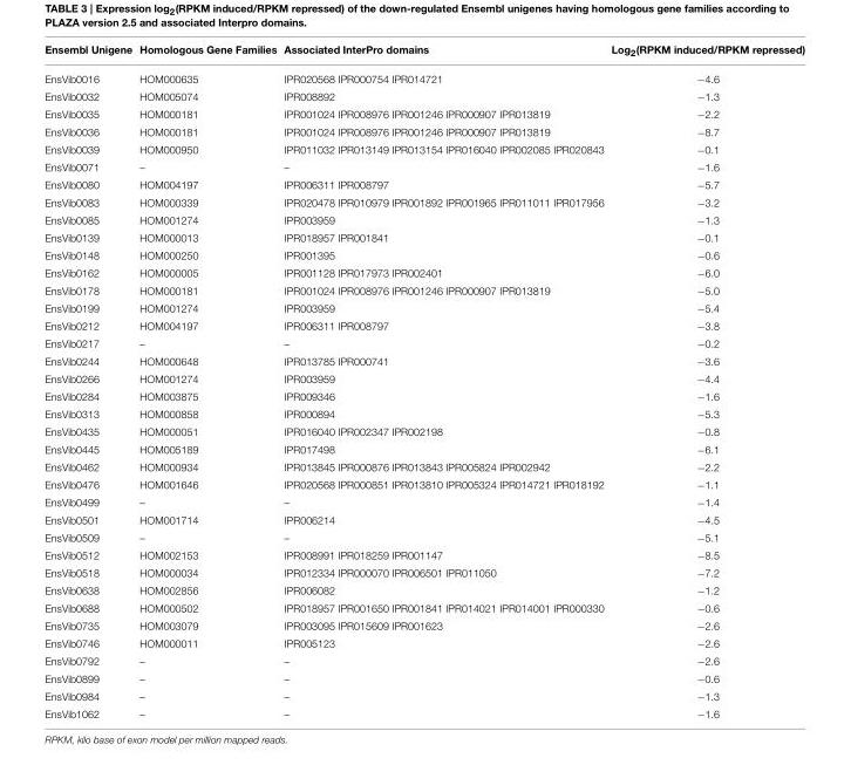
<table><thead><tr><td>Ensembl Unigene</td><td>Homologous Gene Families</td><td>Associated InterPro domains</td><td>Log<sub>2</sub>(RPKM induced/RPKM repressed)</td></tr></thead><tbody><tr><td>EnsVib0016</td><td>HOM000635</td><td>IPR020568 IPR000754 IPR014721</td><td>−4.6</td></tr><tr><td>EnsVib0032</td><td>HOM005074</td><td>IPR008892</td><td>−1.3</td></tr><tr><td>EnsVib0035</td><td>HOM000181</td><td>IPR001024 IPR008976 IPR001246 IPR000907 IPR013819</td><td>−2.2</td></tr><tr><td>EnsVib0036</td><td>HOM000181</td><td>IPR001024 IPR008976 IPR001246 IPR000907 IPR013819</td><td>−8.7</td></tr><tr><td>EnsVib0039</td><td>HOM000950</td><td>IPR011032 IPR013149 IPR013154 IPR016040 IPR002085 IPR020843</td><td>−0.1</td></tr><tr><td>EnsVib0071</td><td>–</td><td>–</td><td>−1.6</td></tr><tr><td>EnsVib0080</td><td>HOM004197</td><td>IPR006311 IPR008797</td><td>−5.7</td></tr><tr><td>EnsVib0083</td><td>HOM000339</td><td>IPR020478 IPR010979 IPR001892 IPR001965 IPR011011 IPR017956</td><td>−3.2</td></tr><tr><td>EnsVib0085</td><td>HOM001274</td><td>IPR003959</td><td>−1.3</td></tr><tr><td>EnsVib0139</td><td>HOM000013</td><td>IPR018957 IPR001841</td><td>−0.1</td></tr><tr><td>EnsVib0148</td><td>HOM000250</td><td>IPR001395</td><td>−0.6</td></tr><tr><td>EnsVib0162</td><td>HOM000005</td><td>IPR001128 IPR017973 IPR002401</td><td>−6.0</td></tr><tr><td>EnsVib0178</td><td>HOM000181</td><td>IPR001024 IPR008976 IPR001246 IPR000907 IPR013819</td><td>−5.0</td></tr><tr><td>EnsVib0199</td><td>HOM001274</td><td>IPR003959</td><td>−5.4</td></tr><tr><td>EnsVib0212</td><td>HOM004197</td><td>IPR006311 IPR008797</td><td>−3.8</td></tr><tr><td>EnsVib0217</td><td>–</td><td>–</td><td>−0.2</td></tr><tr><td>EnsVib0244</td><td>HOM000648</td><td>IPR013785 IPR000741</td><td>−3.6</td></tr><tr><td>EnsVib0266</td><td>HOM001274</td><td>IPR003959</td><td>−4.4</td></tr><tr><td>EnsVib0284</td><td>HOM003875</td><td>IPR009346</td><td>−1.6</td></tr><tr><td>EnsVib0313</td><td>HOM000858</td><td>IPR000894</td><td>−5.3</td></tr><tr><td>EnsVib0435</td><td>HOM000051</td><td>IPR016040 IPR002347 IPR002198</td><td>−0.8</td></tr><tr><td>EnsVib0445</td><td>HOM005189</td><td>IPR017498</td><td>−6.1</td></tr><tr><td>EnsVib0462</td><td>HOM000934</td><td>IPR013845 IPR000876 IPR013843 IPR005824 IPR002942</td><td>−2.2</td></tr><tr><td>EnsVib0476</td><td>HOM001646</td><td>IPR020568 IPR000851 IPR013810 IPR005324 IPR014721 IPR018192</td><td>−1.1</td></tr><tr><td>EnsVib0499</td><td>–</td><td>–</td><td>−1.4</td></tr><tr><td>EnsVib0501</td><td>HOM001714</td><td>IPR006214</td><td>−4.5</td></tr><tr><td>EnsVib0509</td><td>–</td><td>–</td><td>−5.1</td></tr><tr><td>EnsVib0512</td><td>HOM002153</td><td>IPR008991 IPR018259 IPR001147</td><td>−8.5</td></tr><tr><td>EnsVib0518</td><td>HOM000034</td><td>IPR012334 IPR000070 IPR006501 IPR011050</td><td>−7.2</td></tr><tr><td>EnsVib0638</td><td>HOM002856</td><td>IPR006082</td><td>−1.2</td></tr><tr><td>EnsVib0688</td><td>HOM000502</td><td>IPR018957 IPR001650 IPR001841 IPR014021 IPR014001 IPR000330</td><td>−0.6</td></tr><tr><td>EnsVib0735</td><td>HOM003079</td><td>IPR003095 IPR015609 IPR001623</td><td>−2.6</td></tr><tr><td>EnsVib0746</td><td>HOM000011</td><td>IPR005123</td><td>−2.6</td></tr><tr><td>EnsVib0792</td><td>–</td><td>–</td><td>−2.6</td></tr><tr><td>EnsVib0899</td><td>–</td><td>–</td><td>−0.6</td></tr><tr><td>EnsVib0984</td><td>–</td><td>–</td><td>−1.3</td></tr><tr><td>EnsVib1062</td><td>–</td><td>–</td><td>−1.6</td></tr></tbody></table>